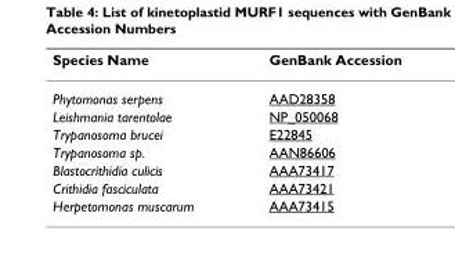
<table><thead><tr><td>Species Name</td><td>GenBank Accession</td></tr></thead><tbody><tr><td>Phytomonas serpens</td><td>AAD28358</td></tr><tr><td>Leishmania tarentolae</td><td>NP_050068</td></tr><tr><td>Trypanosoma brucei</td><td>E22845</td></tr><tr><td>Trypanosoma sp.</td><td>AAN86606</td></tr><tr><td>Blastocrithidia culicis</td><td>AAA73417</td></tr><tr><td>Crithidia fasciculata</td><td>AAA73421</td></tr><tr><td>Herpetomonas muscarum</td><td>AAA73415</td></tr></tbody></table>